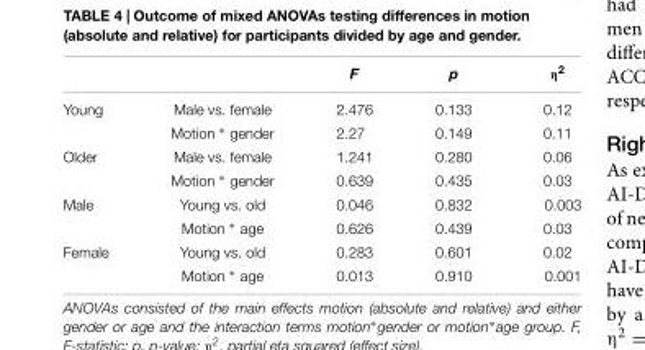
<table><thead><tr><td></td><td></td><td>F</td><td>p</td><td>η<sup>2</sup></td></tr></thead><tbody><tr><td rowspan="2">Young</td><td>Male vs. female</td><td>2.476</td><td>0.133</td><td>0.12</td></tr><tr><td>Motion ∗ gender</td><td>2.27</td><td>0.149</td><td>0.11</td></tr><tr><td rowspan="2">Older</td><td>Male vs. female</td><td>1.241</td><td>0.280</td><td>0.06</td></tr><tr><td>Motion ∗ gender</td><td>0.639</td><td>0.435</td><td>0.03</td></tr><tr><td rowspan="2">Male</td><td>Young vs. old</td><td>0.046</td><td>0.832</td><td>0.003</td></tr><tr><td>Motion ∗ age</td><td>0.626</td><td>0.439</td><td>0.03</td></tr><tr><td rowspan="2">Female</td><td>Young vs. old</td><td>0.283</td><td>0.601</td><td>0.02</td></tr><tr><td>Motion ∗ age</td><td>0.013</td><td>0.910</td><td>0.001</td></tr></tbody></table>